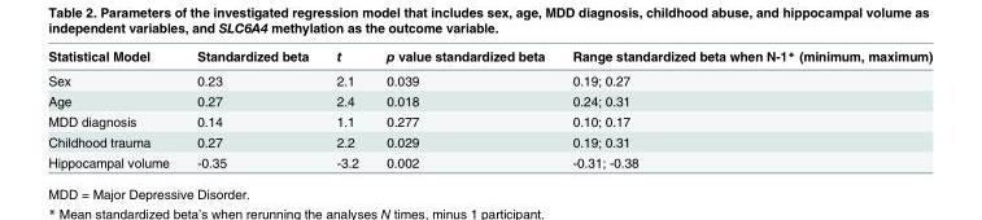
<table><thead><tr><td>Statistical Model</td><td>Standardized beta</td><td>t</td><td>p value standardized beta</td><td>Range standardized beta when N-1* (minimum, maximum)</td></tr></thead><tbody><tr><td>Sex</td><td>0.23</td><td>2.1</td><td>0.039</td><td>0.19; 0.27</td></tr><tr><td>Age</td><td>0.27</td><td>2.4</td><td>0.018</td><td>0.24; 0.31</td></tr><tr><td>MDD diagnosis</td><td>0.14</td><td>1.1</td><td>0.277</td><td>0.10; 0.17</td></tr><tr><td>Childhood trauma</td><td>0.27</td><td>2.2</td><td>0.029</td><td>0.19; 0.31</td></tr><tr><td>Hippocampal volume</td><td>-0.35</td><td>-3.2</td><td>0.002</td><td>-0.31; -0.38</td></tr></tbody></table>